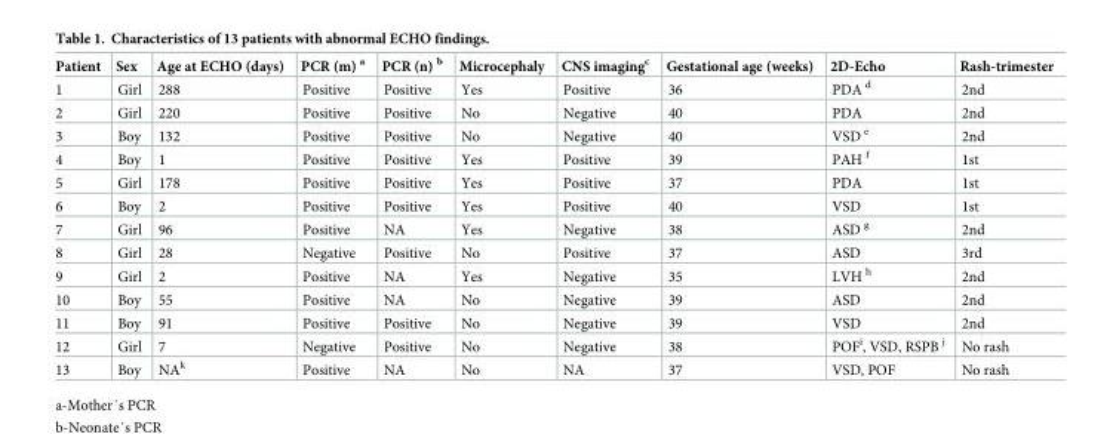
<table><thead><tr><td>Patient</td><td>Sex</td><td>Age at ECHO (days)</td><td>PCR (m) <sup>a</sup></td><td>PCR (n) <sup>b</sup></td><td>Microcephaly</td><td>CNS imaging<sup>c</sup></td><td>Gestational age (weeks)</td><td>2D-Echo</td><td>Rash-trimester</td></tr></thead><tbody><tr><td>1</td><td>Girl</td><td>288</td><td>Positive</td><td>Positive</td><td>Yes</td><td>Positive</td><td>36</td><td>PDA <sup>d</sup></td><td>2nd</td></tr><tr><td>2</td><td>Girl</td><td>220</td><td>Positive</td><td>Positive</td><td>No</td><td>Negative</td><td>40</td><td>PDA</td><td>2nd</td></tr><tr><td>3</td><td>Boy</td><td>132</td><td>Positive</td><td>Positive</td><td>No</td><td>Negative</td><td>40</td><td>VSD <sup>e</sup></td><td>2nd</td></tr><tr><td>4</td><td>Boy</td><td>1</td><td>Positive</td><td>Positive</td><td>Yes</td><td>Positive</td><td>39</td><td>PAH <sup>f</sup></td><td>1st</td></tr><tr><td>5</td><td>Girl</td><td>178</td><td>Positive</td><td>Positive</td><td>Yes</td><td>Positive</td><td>37</td><td>PDA</td><td>1st</td></tr><tr><td>6</td><td>Boy</td><td>2</td><td>Positive</td><td>Positive</td><td>Yes</td><td>Positive</td><td>40</td><td>VSD</td><td>1st</td></tr><tr><td>7</td><td>Girl</td><td>96</td><td>Positive</td><td>NA</td><td>Yes</td><td>Negative</td><td>38</td><td>ASD <sup>g</sup></td><td>2nd</td></tr><tr><td>8</td><td>Girl</td><td>28</td><td>Negative</td><td>Positive</td><td>No</td><td>Positive</td><td>37</td><td>ASD</td><td>3rd</td></tr><tr><td>9</td><td>Girl</td><td>2</td><td>Positive</td><td>NA</td><td>Yes</td><td>Negative</td><td>35</td><td>LVH <sup>h</sup></td><td>2nd</td></tr><tr><td>10</td><td>Boy</td><td>55</td><td>Positive</td><td>NA</td><td>No</td><td>Negative</td><td>39</td><td>ASD</td><td>2nd</td></tr><tr><td>11</td><td>Boy</td><td>91</td><td>Positive</td><td>Positive</td><td>No</td><td>Negative</td><td>39</td><td>VSD</td><td>2nd</td></tr><tr><td>12</td><td>Girl</td><td>7</td><td>Negative</td><td>Positive</td><td>No</td><td>Negative</td><td>38</td><td>POF<sup>i</sup>, VSD, RSPB <sup>j</sup></td><td>No rash</td></tr><tr><td>13</td><td>Boy</td><td>NA<sup>k</sup></td><td>Positive</td><td>NA</td><td>No</td><td>NA</td><td>37</td><td>VSD, POF</td><td>No rash</td></tr></tbody></table>